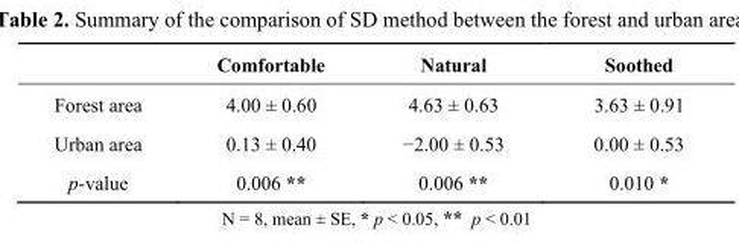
<table><thead><tr><td></td><td>Comfortable</td><td>Natural</td><td>Soothed</td></tr></thead><tbody><tr><td>Forest area</td><td>4.00 ± 0.60</td><td>4.63 ± 0.63</td><td>3.63 ± 0.91</td></tr><tr><td>Urban area</td><td>0.13 ± 0.40</td><td>−2.00 ± 0.53</td><td>0.00 ± 0.53</td></tr><tr><td>p-value</td><td>0.006 **</td><td>0.006 **</td><td>0.010 *</td></tr></tbody></table>